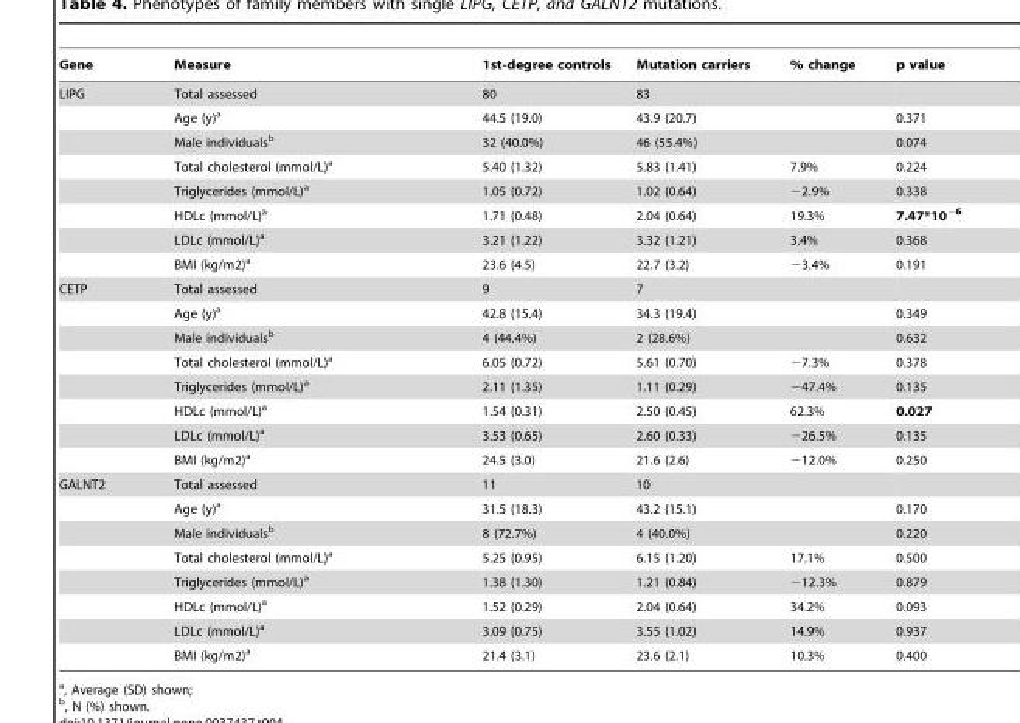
<table><thead><tr><td>Gene</td><td>Measure</td><td>1st-degree controls</td><td>Mutation carriers</td><td>% change</td><td>p value</td></tr></thead><tbody><tr><td rowspan="8">LIPG</td><td>Total assessed</td><td>80</td><td>83</td><td></td><td></td></tr><tr><td>Age (y)<sup>a</sup></td><td>44.5 (19.0)</td><td>43.9 (20.7)</td><td></td><td>0.371</td></tr><tr><td>Male individuals<sup>b</sup></td><td>32 (40.0%)</td><td>46 (55.4%)</td><td></td><td>0.074</td></tr><tr><td>Total cholesterol (mmol/L)<sup>a</sup></td><td>5.40 (1.32)</td><td>5.83 (1.41)</td><td>7.9%</td><td>0.224</td></tr><tr><td>Triglycerides (mmol/L)<sup>a</sup></td><td>1.05 (0.72)</td><td>1.02 (0.64)</td><td>−2.9%</td><td>0.338</td></tr><tr><td>HDLc (mmol/L)<sup>a</sup></td><td>1.71 (0.48)</td><td>2.04 (0.64)</td><td>19.3%</td><td>7.47*10<sup>−6</sup></td></tr><tr><td>LDLc (mmol/L)<sup>a</sup></td><td>3.21 (1.22)</td><td>3.32 (1.21)</td><td>3.4%</td><td>0.368</td></tr><tr><td>BMI (kg/m2)<sup>a</sup></td><td>23.6 (4.5)</td><td>22.7 (3.2)</td><td>−3.4%</td><td>0.191</td></tr><tr><td rowspan="8">CETP</td><td>Total assessed</td><td>9</td><td>7</td><td></td><td></td></tr><tr><td>Age (y)<sup>a</sup></td><td>42.8 (15.4)</td><td>34.3 (19.4)</td><td></td><td>0.349</td></tr><tr><td>Male individuals<sup>b</sup></td><td>4 (44.4%)</td><td>2 (28.6%)</td><td></td><td>0.632</td></tr><tr><td>Total cholesterol (mmol/L)<sup>a</sup></td><td>6.05 (0.72)</td><td>5.61 (0.70)</td><td>−7.3%</td><td>0.378</td></tr><tr><td>Triglycerides (mmol/L)<sup>a</sup></td><td>2.11 (1.35)</td><td>1.11 (0.29)</td><td>−47.4%</td><td>0.135</td></tr><tr><td>HDLc (mmol/L)<sup>a</sup></td><td>1.54 (0.31)</td><td>2.50 (0.45)</td><td>62.3%</td><td>0.027</td></tr><tr><td>LDLc (mmol/L)<sup>a</sup></td><td>3.53 (0.65)</td><td>2.60 (0.33)</td><td>−26.5%</td><td>0.135</td></tr><tr><td>BMI (kg/m2)<sup>a</sup></td><td>24.5 (3.0)</td><td>21.6 (2.6)</td><td>−12.0%</td><td>0.250</td></tr><tr><td rowspan="8">GALNT2</td><td>Total assessed</td><td>11</td><td>10</td><td></td><td></td></tr><tr><td>Age (y)<sup>a</sup></td><td>31.5 (18.3)</td><td>43.2 (15.1)</td><td></td><td>0.170</td></tr><tr><td>Male individuals<sup>b</sup></td><td>8 (72.7%)</td><td>4 (40.0%)</td><td></td><td>0.220</td></tr><tr><td>Total cholesterol (mmol/L)<sup>a</sup></td><td>5.25 (0.95)</td><td>6.15 (1.20)</td><td>17.1%</td><td>0.500</td></tr><tr><td>Triglycerides (mmol/L)<sup>a</sup></td><td>1.38 (1.30)</td><td>1.21 (0.84)</td><td>−12.3%</td><td>0.879</td></tr><tr><td>HDLc (mmol/L)<sup>a</sup></td><td>1.52 (0.29)</td><td>2.04 (0.64)</td><td>34.2%</td><td>0.093</td></tr><tr><td>LDLc (mmol/L)<sup>a</sup></td><td>3.09 (0.75)</td><td>3.55 (1.02)</td><td>14.9%</td><td>0.937</td></tr><tr><td>BMI (kg/m2)<sup>a</sup></td><td>21.4 (3.1)</td><td>23.6 (2.1)</td><td>10.3%</td><td>0.400</td></tr></tbody></table>